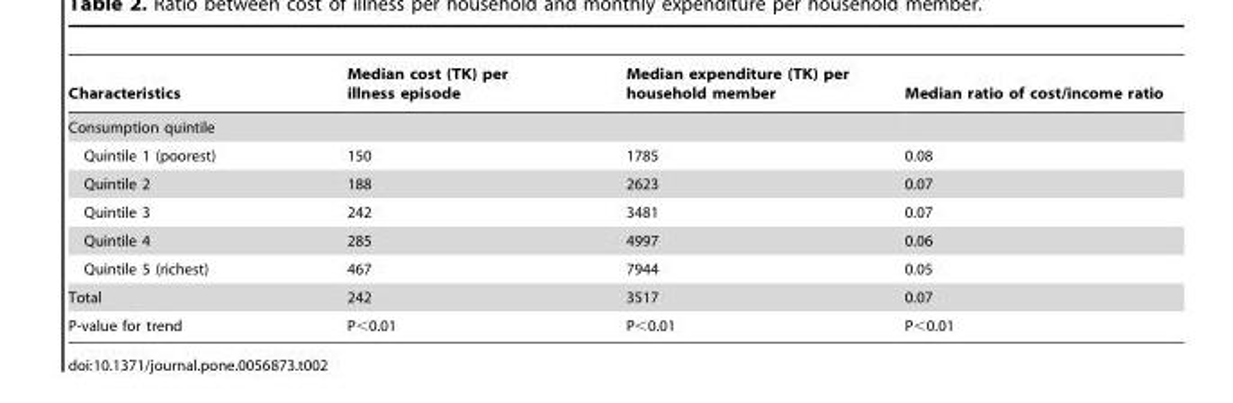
<table><thead><tr><td>Characteristics</td><td>Median cost (TK) per illness episode</td><td>Median expenditure (TK) per household member</td><td>Median ratio of cost/income ratio</td></tr></thead><tbody><tr><td colspan="4">Consumption quintile</td></tr><tr><td>Quintile 1 (poorest)</td><td>150</td><td>1785</td><td>0.08</td></tr><tr><td>Quintile 2</td><td>188</td><td>2623</td><td>0.07</td></tr><tr><td>Quintile 3</td><td>242</td><td>3481</td><td>0.07</td></tr><tr><td>Quintile 4</td><td>285</td><td>4997</td><td>0.06</td></tr><tr><td>Quintile 5 (richest)</td><td>467</td><td>7944</td><td>0.05</td></tr><tr><td>Total</td><td>242</td><td>3517</td><td>0.07</td></tr><tr><td>P-value for trend</td><td>P&lt;0.01</td><td>P&lt;0.01</td><td>P&lt;0.01</td></tr></tbody></table>